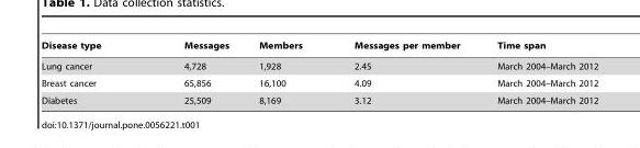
<table><thead><tr><td>Disease type</td><td>Messages</td><td>Members</td><td>Messages per member</td><td>Time span</td></tr></thead><tbody><tr><td>Lung cancer</td><td>4,728</td><td>1,928</td><td>2.45</td><td>March 2004–March 2012</td></tr><tr><td>Breast cancer</td><td>65,856</td><td>16,100</td><td>4.09</td><td>March 2004–March 2012</td></tr><tr><td>Diabetes</td><td>25,509</td><td>8,169</td><td>3.12</td><td>March 2004–March 2012</td></tr></tbody></table>